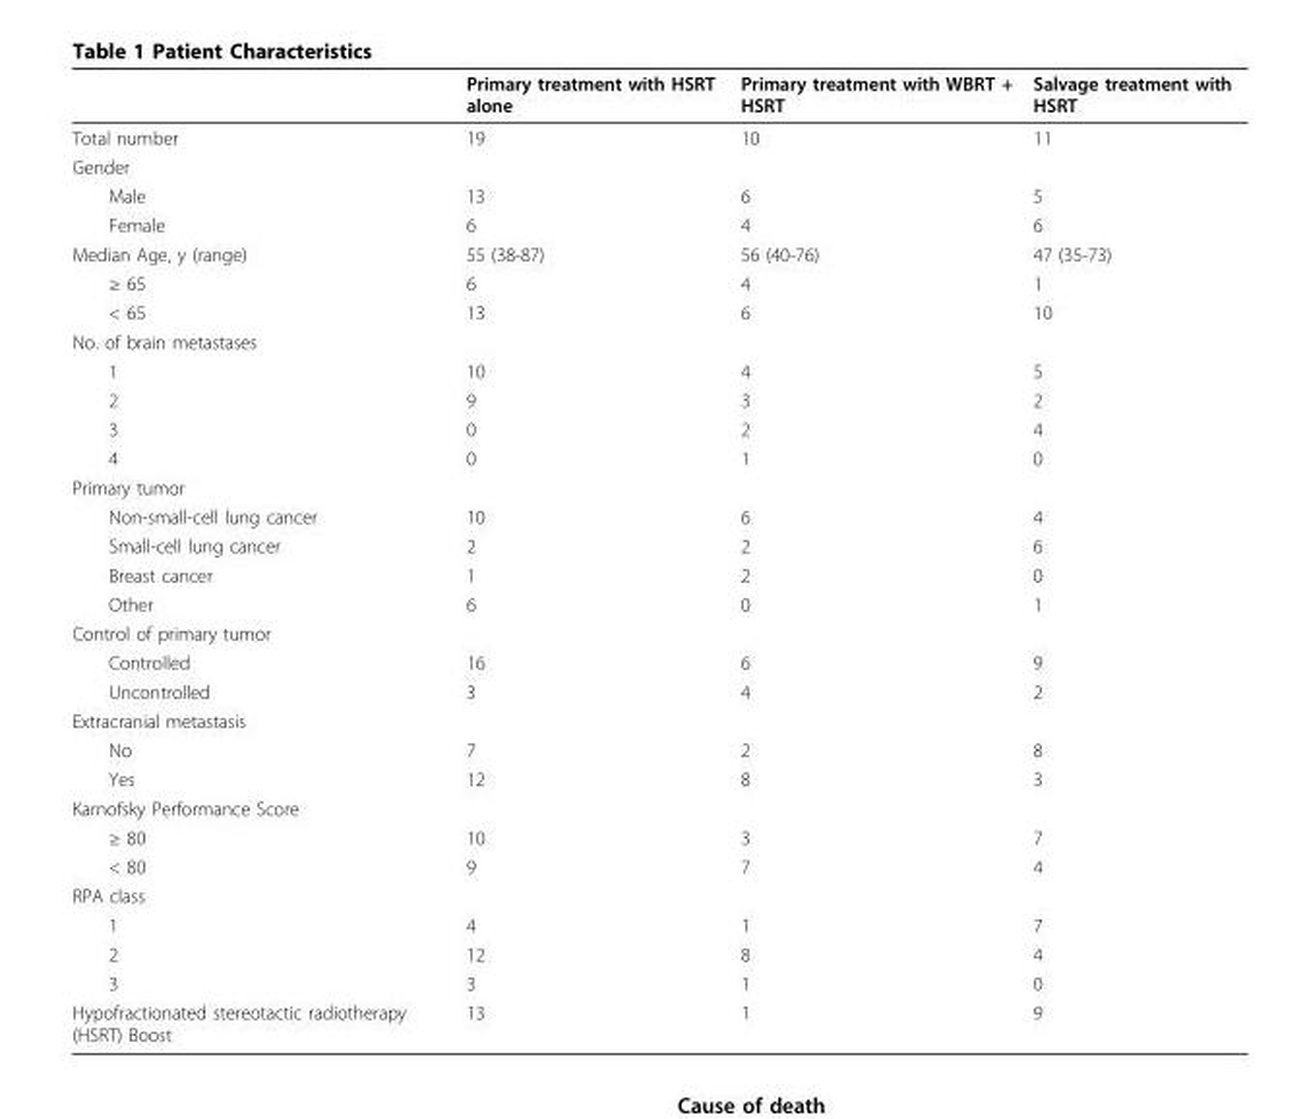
<table><thead><tr><td></td><td>Primary treatment with HSRT alone</td><td>Primary treatment with WBRT + HSRT</td><td>Salvage treatment with HSRT</td></tr></thead><tbody><tr><td>Total number</td><td>19</td><td>10</td><td>11</td></tr><tr><td colspan="4">Gender</td></tr><tr><td>Male</td><td>13</td><td>6</td><td>5</td></tr><tr><td>Female</td><td>6</td><td>4</td><td>6</td></tr><tr><td>Median Age, y (range)</td><td>55 (38-87)</td><td>56 (40-76)</td><td>47 (35-73)</td></tr><tr><td>≥ 65</td><td>6</td><td>4</td><td>1</td></tr><tr><td>&lt; 65</td><td>13</td><td>6</td><td>10</td></tr><tr><td colspan="4">No. of brain metastases</td></tr><tr><td>1</td><td>10</td><td>4</td><td>5</td></tr><tr><td>2</td><td>9</td><td>3</td><td>2</td></tr><tr><td>3</td><td>0</td><td>2</td><td>4</td></tr><tr><td>4</td><td>0</td><td>1</td><td>0</td></tr><tr><td colspan="4">Primary tumor</td></tr><tr><td>Non-small-cell lung cancer</td><td>10</td><td>6</td><td>4</td></tr><tr><td>Small-cell lung cancer</td><td>2</td><td>2</td><td>6</td></tr><tr><td>Breast cancer</td><td>1</td><td>2</td><td>0</td></tr><tr><td>Other</td><td>6</td><td>0</td><td>1</td></tr><tr><td colspan="4">Control of primary tumor</td></tr><tr><td>Controlled</td><td>16</td><td>6</td><td>9</td></tr><tr><td>Uncontrolled</td><td>3</td><td>4</td><td>2</td></tr><tr><td colspan="4">Extracranial metastasis</td></tr><tr><td>No</td><td>7</td><td>2</td><td>8</td></tr><tr><td>Yes</td><td>12</td><td>8</td><td>3</td></tr><tr><td colspan="4">Karnofsky Performance Score</td></tr><tr><td>≥ 80</td><td>10</td><td>3</td><td>7</td></tr><tr><td>&lt; 80</td><td>9</td><td>7</td><td>4</td></tr><tr><td colspan="4">RPA class</td></tr><tr><td>1</td><td>4</td><td>1</td><td>7</td></tr><tr><td>2</td><td>12</td><td>8</td><td>4</td></tr><tr><td>3</td><td>3</td><td>1</td><td>0</td></tr><tr><td>Hypofractionated stereotactic radiotherapy (HSRT) Boost</td><td>13</td><td>1</td><td>9</td></tr></tbody></table>